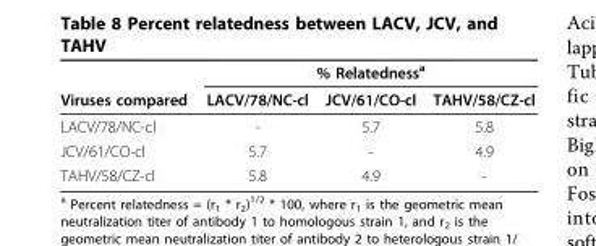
<table><thead><tr><td rowspan="2">Viruses compared</td><td colspan="3">% Relatedness<sup>a</sup></td></tr><tr><td>LACV/78/NC-cl</td><td>JCV/61/CO-cl</td><td>TAHV/58/CZ-cl</td></tr></thead><tbody><tr><td>LACV/78/NC-cl</td><td>-</td><td>5.7</td><td>5.8</td></tr><tr><td>JCV/61/CO-cl</td><td>5.7</td><td>-</td><td>4.9</td></tr><tr><td>TAHV/58/CZ-cl</td><td>5.8</td><td>4.9</td><td>-</td></tr></tbody></table>